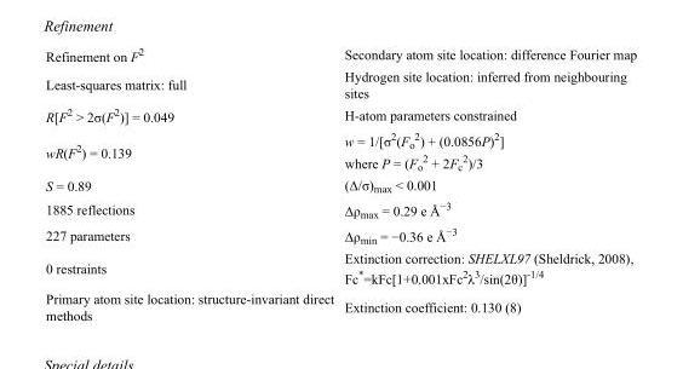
<table><tbody><tr><td>Refinement on F<sup>2</sup></td><td>Secondary atom site location: difference Fourier map</td></tr><tr><td>Least-squares matrix: full</td><td>Hydrogen site location: inferred from neighbouring sites</td></tr><tr><td>R[F<sup>2</sup> &gt; 2σ(F<sup>2</sup>)] = 0.049</td><td>H-atom parameters constrained</td></tr><tr><td>wR(F<sup>2</sup>) = 0.139</td><td>w = 1/[σ<sup>2</sup>(F<sub>o</sub> <sup>2</sup>) + (0.0856P)<sup>2</sup>] where P = (F<sub>o</sub> <sup>2</sup> + 2F<sub>c</sub> <sup>2</sup>)/3</td></tr><tr><td>S = 0.89</td><td>(Δ/σ)<sub>max</sub> &lt; 0.001</td></tr><tr><td>1885 reflections</td><td>Δρ<sub>max</sub> = 0.29 e Å<sup>−3</sup></td></tr><tr><td>227 parameters</td><td>Δρ<sub>min</sub> = −0.36 e Å<sup>−3</sup></td></tr><tr><td>0 restraints</td><td>Extinction correction: SHELXL97 (Sheldrick, 2008), Fc*=kFc[1+0.001xFc<sup>2</sup>λ<sup>3</sup>/sin(2θ)]<sup>-1/4</sup></td></tr><tr><td>Primary atom site location: structure-invariant direct methods</td><td>Extinction coefficient: 0.130 (8)</td></tr></tbody></table>